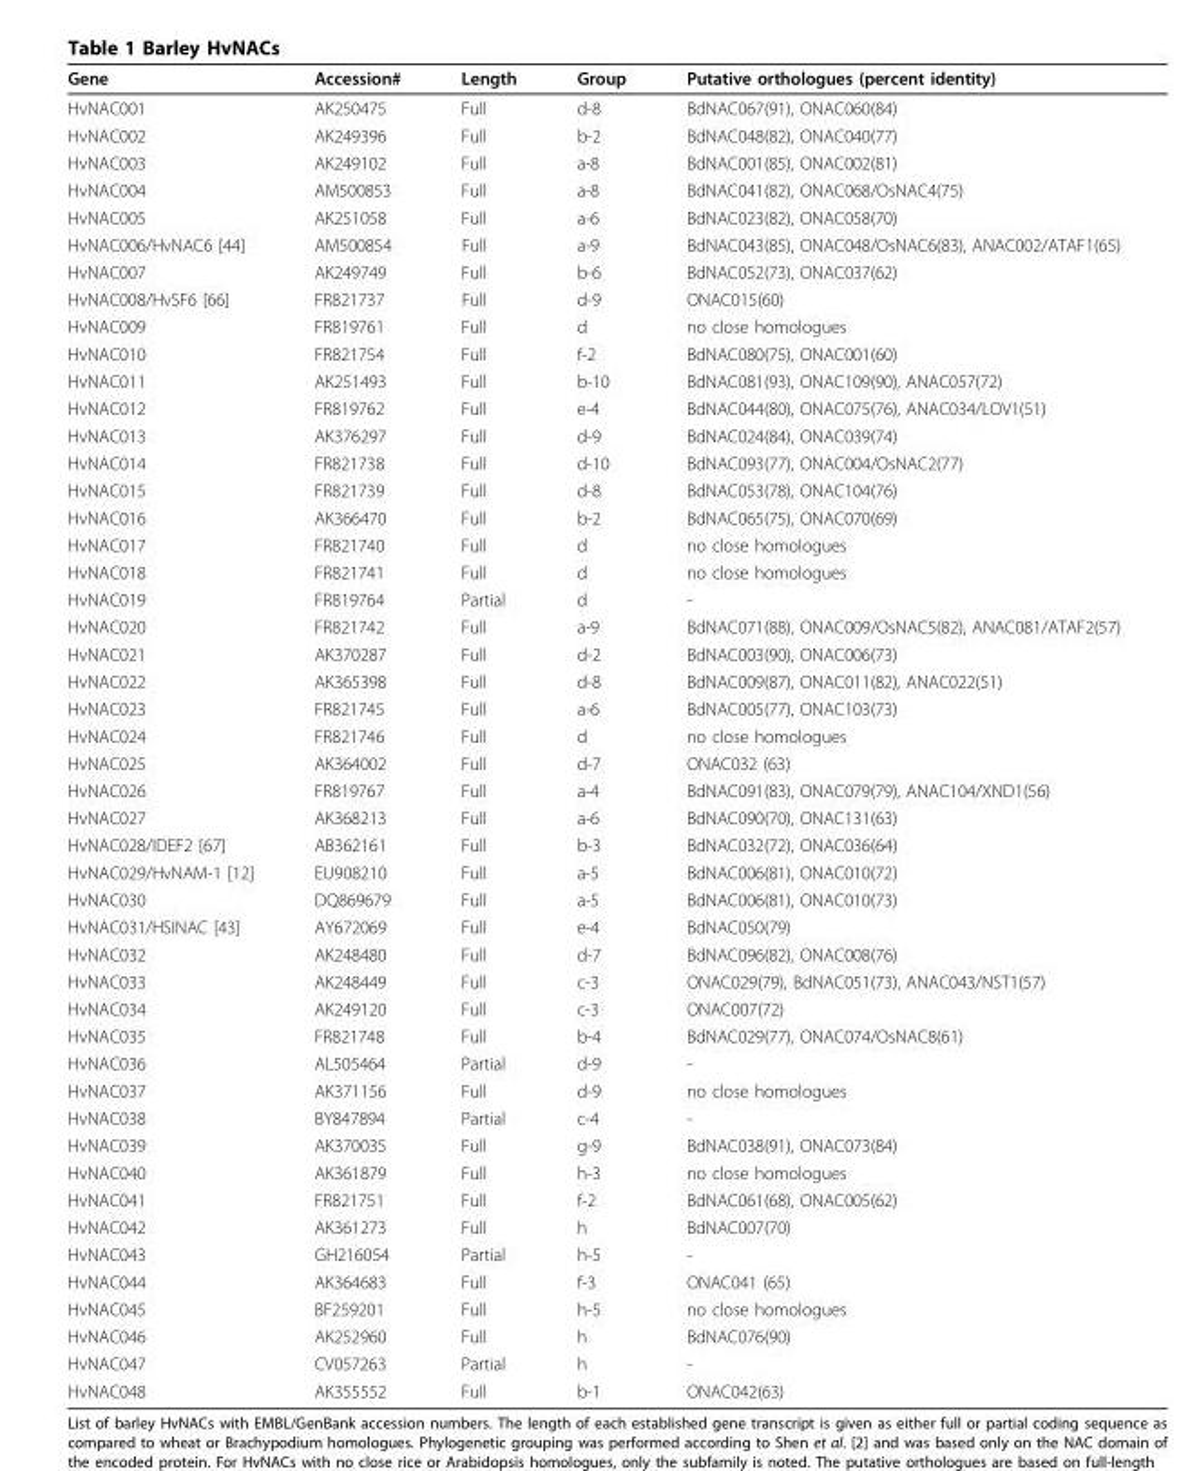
<table><thead><tr><td>Gene</td><td>Accession#</td><td>Length</td><td>Group</td><td>Putative orthologues (percent identity)</td></tr></thead><tbody><tr><td>HvNAC001</td><td>AK250475</td><td>Full</td><td>d-8</td><td>BdNAC067(91), ONAC060(84)</td></tr><tr><td>HvNAC002</td><td>AK249396</td><td>Full</td><td>b-2</td><td>BdNAC048(82), ONAC040(77)</td></tr><tr><td>HvNAC003</td><td>AK249102</td><td>Full</td><td>a-8</td><td>BdNAC001(85), ONAC002(81)</td></tr><tr><td>HvNAC004</td><td>AM500853</td><td>Full</td><td>a-8</td><td>BdNAC041(82), ONAC068/OsNAC4(75)</td></tr><tr><td>HvNAC005</td><td>AK251058</td><td>Full</td><td>a-6</td><td>BdNAC023(82), ONAC058(70)</td></tr><tr><td>HvNAC006/HvNAC6 [44]</td><td>AM500854</td><td>Full</td><td>a-9</td><td>BdNAC043(85), ONAC048/OsNAC6(83), ANAC002/ATAF1(65)</td></tr><tr><td>HvNAC007</td><td>AK249749</td><td>Full</td><td>b-6</td><td>BdNAC052(73), ONAC037(62)</td></tr><tr><td>HvNAC008/HvSF6 [66]</td><td>FR821737</td><td>Full</td><td>d-9</td><td>ONAC015(60)</td></tr><tr><td>HvNAC009</td><td>FR819761</td><td>Full</td><td>d</td><td>no close homologues</td></tr><tr><td>HvNAC010</td><td>FR821754</td><td>Full</td><td>f-2</td><td>BdNAC080(75), ONAC001(60)</td></tr><tr><td>HvNAC011</td><td>AK251493</td><td>Full</td><td>b-10</td><td>BdNAC081(93), ONAC109(90), ANAC057(72)</td></tr><tr><td>HvNAC012</td><td>FR819762</td><td>Full</td><td>e-4</td><td>BdNAC044(80), ONAC075(76), ANAC034/LOV1(51)</td></tr><tr><td>HvNAC013</td><td>AK376297</td><td>Full</td><td>d-9</td><td>BdNAC024(84), ONAC039(74)</td></tr><tr><td>HvNAC014</td><td>FR821738</td><td>Full</td><td>d-10</td><td>BdNAC093(77), ONAC004/OsNAC2(77)</td></tr><tr><td>HvNAC015</td><td>FR821739</td><td>Full</td><td>d-8</td><td>BdNAC053(78), ONAC104(76)</td></tr><tr><td>HvNAC016</td><td>AK366470</td><td>Full</td><td>b-2</td><td>BdNAC065(75), ONAC070(69)</td></tr><tr><td>HvNAC017</td><td>FR821740</td><td>Full</td><td>d</td><td>no close homologues</td></tr><tr><td>HvNAC018</td><td>FR821741</td><td>Full</td><td>d</td><td>no close homologues</td></tr><tr><td>HvNAC019</td><td>FR819764</td><td>Partial</td><td>d</td><td>-</td></tr><tr><td>HvNAC020</td><td>FR821742</td><td>Full</td><td>a-9</td><td>BdNAC071(88), ONAC009/OsNAC5(82), ANAC081/ATAF2(57)</td></tr><tr><td>HvNAC021</td><td>AK370287</td><td>Full</td><td>d-2</td><td>BdNAC003(90), ONAC006(73)</td></tr><tr><td>HvNAC022</td><td>AK365398</td><td>Full</td><td>d-8</td><td>BdNAC009(87), ONAC011(82), ANAC022(51)</td></tr><tr><td>HvNAC023</td><td>FR821745</td><td>Full</td><td>a-6</td><td>BdNAC005(77), ONAC103(73)</td></tr><tr><td>HvNAC024</td><td>FR821746</td><td>Full</td><td>d</td><td>no close homologues</td></tr><tr><td>HvNAC025</td><td>AK364002</td><td>Full</td><td>d-7</td><td>ONAC032 (63)</td></tr><tr><td>HvNAC026</td><td>FR819767</td><td>Full</td><td>a-4</td><td>BdNAC091(83), ONAC079(79), ANAC104/XND1(56)</td></tr><tr><td>HvNAC027</td><td>AK368213</td><td>Full</td><td>a-6</td><td>BdNAC090(70), ONAC131(63)</td></tr><tr><td>HvNAC028/IDEF2 [67]</td><td>AB362161</td><td>Full</td><td>b-3</td><td>BdNAC032(72), ONAC036(64)</td></tr><tr><td>HvNAC029/HvNAM-1 [12]</td><td>EU908210</td><td>Full</td><td>a-5</td><td>BdNAC006(81), ONAC010(72)</td></tr><tr><td>HvNAC030</td><td>DQ869679</td><td>Full</td><td>a-5</td><td>BdNAC006(81), ONAC010(73)</td></tr><tr><td>HvNAC031/HSINAC [43]</td><td>AY672069</td><td>Full</td><td>e-4</td><td>BdNAC050(79)</td></tr><tr><td>HvNAC032</td><td>AK248480</td><td>Full</td><td>d-7</td><td>BdNAC096(82), ONAC008(76)</td></tr><tr><td>HvNAC033</td><td>AK248449</td><td>Full</td><td>c-3</td><td>ONAC029(79), BdNAC051(73), ANAC043/NST1(57)</td></tr><tr><td>HvNAC034</td><td>AK249120</td><td>Full</td><td>c-3</td><td>ONAC007(72)</td></tr><tr><td>HvNAC035</td><td>FR821748</td><td>Full</td><td>b-4</td><td>BdNAC029(77), ONAC074/OsNAC8(61)</td></tr><tr><td>HvNAC036</td><td>AL505464</td><td>Partial</td><td>d-9</td><td>-</td></tr><tr><td>HvNAC037</td><td>AK371156</td><td>Full</td><td>d-9</td><td>no close homologues</td></tr><tr><td>HvNAC038</td><td>BY847894</td><td>Partial</td><td>c-4</td><td>-</td></tr><tr><td>HvNAC039</td><td>AK370035</td><td>Full</td><td>g-9</td><td>BdNAC038(91), ONAC073(84)</td></tr><tr><td>HvNAC040</td><td>AK361879</td><td>Full</td><td>h-3</td><td>no close homologues</td></tr><tr><td>HvNAC041</td><td>FR821751</td><td>Full</td><td>f-2</td><td>BdNAC061(68), ONAC005(62)</td></tr><tr><td>HvNAC042</td><td>AK361273</td><td>Full</td><td>h</td><td>BdNAC007(70)</td></tr><tr><td>HvNAC043</td><td>GH216054</td><td>Partial</td><td>h-5</td><td>-</td></tr><tr><td>HvNAC044</td><td>AK364683</td><td>Full</td><td>f-3</td><td>ONAC041 (65)</td></tr><tr><td>HvNAC045</td><td>BF259201</td><td>Full</td><td>h-5</td><td>no close homologues</td></tr><tr><td>HvNAC046</td><td>AK252960</td><td>Full</td><td>h</td><td>BdNAC076(90)</td></tr><tr><td>HvNAC047</td><td>CV057263</td><td>Partial</td><td>h</td><td>-</td></tr><tr><td>HvNAC048</td><td>AK355552</td><td>Full</td><td>b-1</td><td>ONAC042(63)</td></tr></tbody></table>